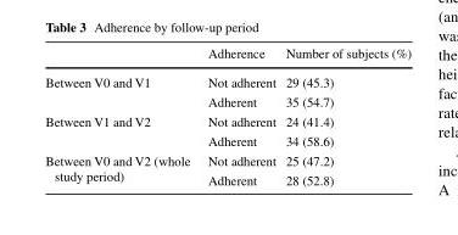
<table><thead><tr><td></td><td>Adherence</td><td>Number of subjects (%)</td></tr></thead><tbody><tr><td rowspan="2">Between V0 and V1</td><td>Not adherent</td><td>29 (45.3)</td></tr><tr><td>Adherent</td><td>35 (54.7)</td></tr><tr><td rowspan="2">Between V1 and V2</td><td>Not adherent</td><td>24 (41.4)</td></tr><tr><td>Adherent</td><td>34 (58.6)</td></tr><tr><td rowspan="2">Between V0 and V2 (whole study period)</td><td>Not adherent</td><td>25 (47.2)</td></tr><tr><td>Adherent</td><td>28 (52.8)</td></tr></tbody></table>